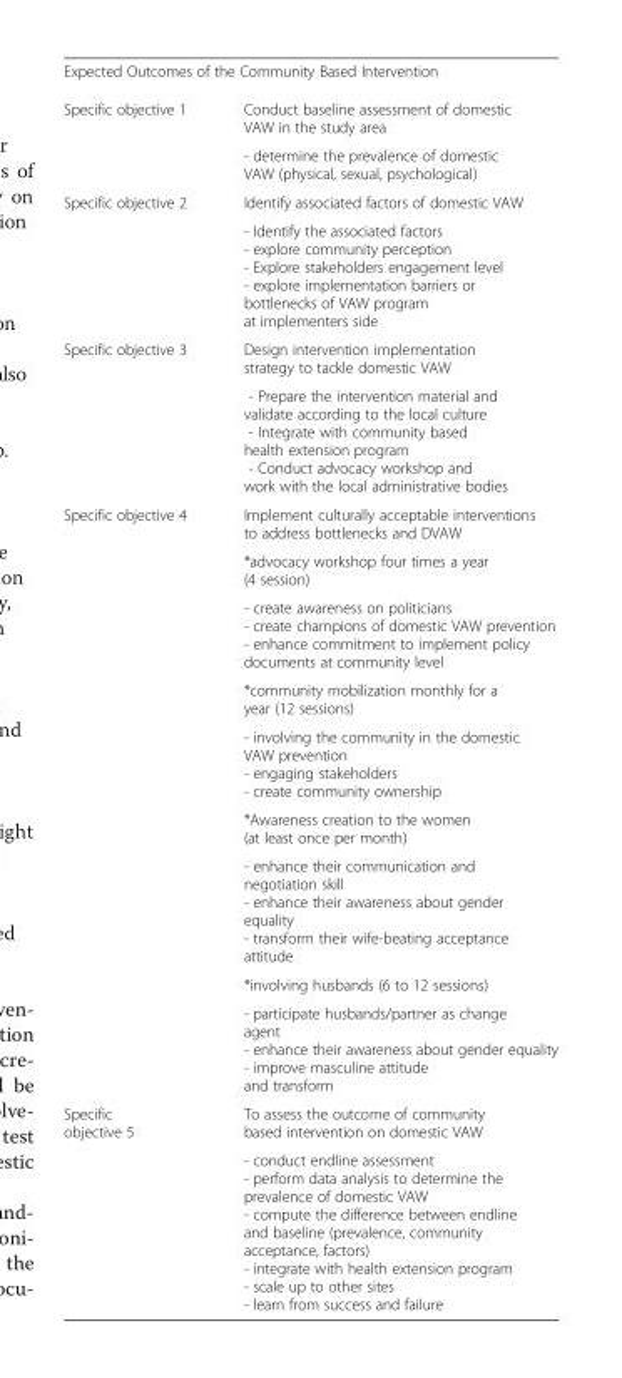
<table><tbody><tr><td colspan="2">Expected Outcomes of the Community Based Intervention</td></tr><tr><td rowspan="2">Specific objective 1</td><td>Conduct baseline assessment of domestic VAW in the study area</td></tr><tr><td>- determine the prevalence of domestic VAW (physical, sexual, psychological)</td></tr><tr><td rowspan="2">Specific objective 2</td><td>Identify associated factors of domestic VAW</td></tr><tr><td>- Identify the associated factors - explore community perception - Explore stakeholders engagement level - explore implementation barriers or bottlenecks of VAW program at implementers side</td></tr><tr><td rowspan="2">Specific objective 3</td><td>Design intervention implementation strategy to tackle domestic VAW</td></tr><tr><td>- Prepare the intervention material and validate according to the local culture - Integrate with community based health extension program - Conduct advocacy workshop and work with the local administrative bodies</td></tr><tr><td rowspan="9">Specific objective 4</td><td>Implement culturally acceptable interventions to address bottlenecks and DVAW</td></tr><tr><td>*advocacy workshop four times a year (4 session)</td></tr><tr><td>- create awareness on politicians - create champions of domestic VAW prevention - enhance commitment to implement policy documents at community level</td></tr><tr><td>*community mobilization monthly for a year (12 sessions)</td></tr><tr><td>- involving the community in the domestic VAW prevention - engaging stakeholders - create community ownership</td></tr><tr><td>*Awareness creation to the women (at least once per month)</td></tr><tr><td>- enhance their communication and negotiation skill - enhance their awareness about gender equality - transform their wife-beating acceptance attitude</td></tr><tr><td>*involving husbands (6 to 12 sessions)</td></tr><tr><td>- participate husbands/partner as change agent - enhance their awareness about gender equality - improve masculine attitude and transform</td></tr><tr><td rowspan="2">Specific objective 5</td><td>To assess the outcome of community based intervention on domestic VAW</td></tr><tr><td>- conduct endline assessment - perform data analysis to determine the prevalence of domestic VAW - compute the difference between endline and baseline (prevalence, community acceptance, factors) - integrate with health extension program - scale up to other sites - learn from success and failure</td></tr></tbody></table>